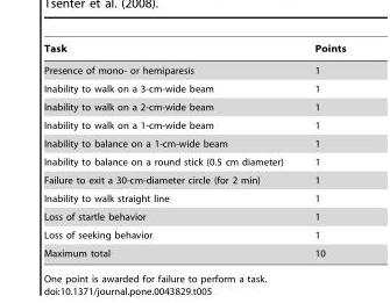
<table><thead><tr><td>Task</td><td>Points</td></tr></thead><tbody><tr><td>Presence of mono- or hemiparesis</td><td>1</td></tr><tr><td>Inability to walk on a 3-cm-wide beam</td><td>1</td></tr><tr><td>Inability to walk on a 2-cm-wide beam</td><td>1</td></tr><tr><td>Inability to walk on a 1-cm-wide beam</td><td>1</td></tr><tr><td>Inability to balance on a 1-cm-wide beam</td><td>1</td></tr><tr><td>Inability to balance on a round stick (0.5 cm diameter)</td><td>1</td></tr><tr><td>Failure to exit a 30-cm-diameter circle (for 2 min)</td><td>1</td></tr><tr><td>Inability to walk straight line</td><td>1</td></tr><tr><td>Loss of startle behavior</td><td>1</td></tr><tr><td>Loss of seeking behavior</td><td>1</td></tr><tr><td>Maximum total</td><td>10</td></tr></tbody></table>